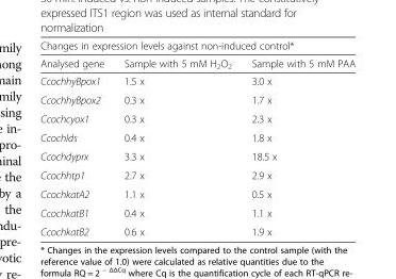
<table><thead><tr><td colspan="3">Changes in expression levels against non-induced control*</td></tr><tr><td>Analysed gene</td><td>Sample with 5 mM H<sub>2</sub>O<sub>2</sub></td><td>Sample with 5 mM PAA</td></tr></thead><tbody><tr><td>CcochhyBpox1</td><td>1.5 x</td><td>3.0 x</td></tr><tr><td>CcochhyBpox2</td><td>0.3 x</td><td>1.7 x</td></tr><tr><td>Ccochcyox1</td><td>0.3 x</td><td>2.3 x</td></tr><tr><td>Ccochlds</td><td>0.4 x</td><td>1.8 x</td></tr><tr><td>Ccochdyprx</td><td>3.3 x</td><td>18.5 x</td></tr><tr><td>Ccochhtp1</td><td>2.7 x</td><td>2.9 x</td></tr><tr><td>CcochkatA2</td><td>1.1 x</td><td>0.5 x</td></tr><tr><td>CcochkatB1</td><td>0.4 x</td><td>1.1 x</td></tr><tr><td>CcochkatB2</td><td>0.6 x</td><td>1.9 x</td></tr></tbody></table>